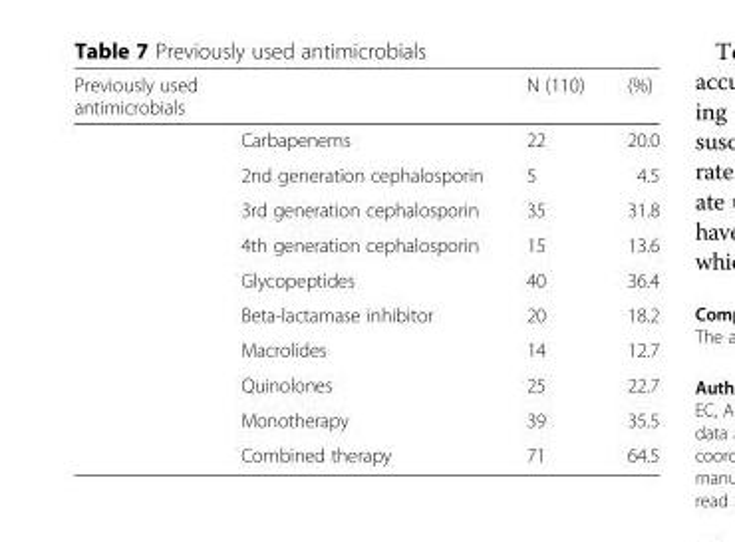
<table><thead><tr><td>Previously used antimicrobials</td><td></td><td>N (110)</td><td>(%)</td></tr></thead><tbody><tr><td></td><td>Carbapenems</td><td>22</td><td>20.0</td></tr><tr><td></td><td>2nd generation cephalosporin</td><td>5</td><td>4.5</td></tr><tr><td></td><td>3rd generation cephalosporin</td><td>35</td><td>31.8</td></tr><tr><td></td><td>4th generation cephalosporin</td><td>15</td><td>13.6</td></tr><tr><td></td><td>Glycopeptides</td><td>40</td><td>36.4</td></tr><tr><td></td><td>Beta-lactamase inhibitor</td><td>20</td><td>18.2</td></tr><tr><td></td><td>Macrolides</td><td>14</td><td>12.7</td></tr><tr><td></td><td>Quinolones</td><td>25</td><td>22.7</td></tr><tr><td></td><td>Monotherapy</td><td>39</td><td>35.5</td></tr><tr><td></td><td>Combined therapy</td><td>71</td><td>64.5</td></tr></tbody></table>